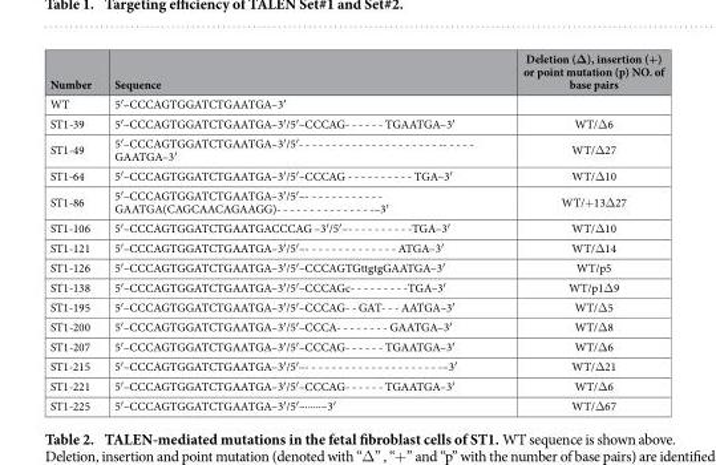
<table><thead><tr><td>Number</td><td>Sequence</td><td>Deletion (Δ), insertion (+) or point mutation (p) NO. of base pairs</td></tr></thead><tbody><tr><td>WT</td><td>5′–CCCAGTGGATCTGAATGA–3′</td><td></td></tr><tr><td>ST1-39</td><td>5′–CCCAGTGGATCTGAATGA–3′/5′–CCCAG- - - - - - TGAATGA–3′</td><td>WT/Δ 6</td></tr><tr><td>ST1-49</td><td>5′–CCCAGTGGATCTGAATGA–3′/5′- - - - - - - - - - - - - - - - - - - - - -- - - - - GAATGA–3′</td><td>WT/Δ 27</td></tr><tr><td>ST1-64</td><td>5′–CCCAGTGGATCTGAATGA–3′/5′–CCCAG - - - - - - - - - - TGA–3′</td><td>WT/Δ 10</td></tr><tr><td>ST1-86</td><td>5′–CCCAGTGGATCTGAATGA–3′/5′–- - - - - - - - - - - - GAATGA(CAGCAACAGAAGG)- - - - - - - - - - - - - - -–3′</td><td>WT/+ 13Δ 27</td></tr><tr><td>ST1-106</td><td>5′–CCCAGTGGATCTGAATGACCCAG –3′/5′–- - - - - - - - - -TGA–3′</td><td>WT/Δ 10</td></tr><tr><td>ST1-121</td><td>5′–CCCAGTGGATCTGAATGA–3′/5′–- - - - - - - - - - - - - - ATGA–3′</td><td>WT/Δ 14</td></tr><tr><td>ST1-126</td><td>5′–CCCAGTGGATCTGAATGA–3′/5′–CCCAGTGttgtgGAATGA–3′</td><td>WT/p5</td></tr><tr><td>ST1-138</td><td>5′–CCCAGTGGATCTGAATGA–3′/5′–CCCAGc- - - - - - - - -TGA–3′</td><td>WT/p1Δ 9</td></tr><tr><td>ST1-195</td><td>5′–CCCAGTGGATCTGAATGA–3′/5′–CCCAG- - GAT- - - AATGA–3′</td><td>WT/Δ 5</td></tr><tr><td>ST1-200</td><td>5′–CCCAGTGGATCTGAATGA–3′/5′–CCCA- - - - - - - - GAATGA–3′</td><td>WT/Δ 8</td></tr><tr><td>ST1-207</td><td>5′–CCCAGTGGATCTGAATGA–3′/5′–CCCAG- - - - - - TGAATGA–3′</td><td>WT/Δ 6</td></tr><tr><td>ST1-215</td><td>5′–CCCAGTGGATCTGAATGA–3′/5′–- - - - - - - - - - - - - - - - - - - - -–3′</td><td>WT/Δ 21</td></tr><tr><td>ST1-221</td><td>5′–CCCAGTGGATCTGAATGA–3′/5′–CCCAG- - - - - - TGAATGA–3′</td><td>WT/Δ 6</td></tr><tr><td>ST1-225</td><td>5′–CCCAGTGGATCTGAATGA–3′/5′–······–3′</td><td>WT/Δ 67</td></tr></tbody></table>